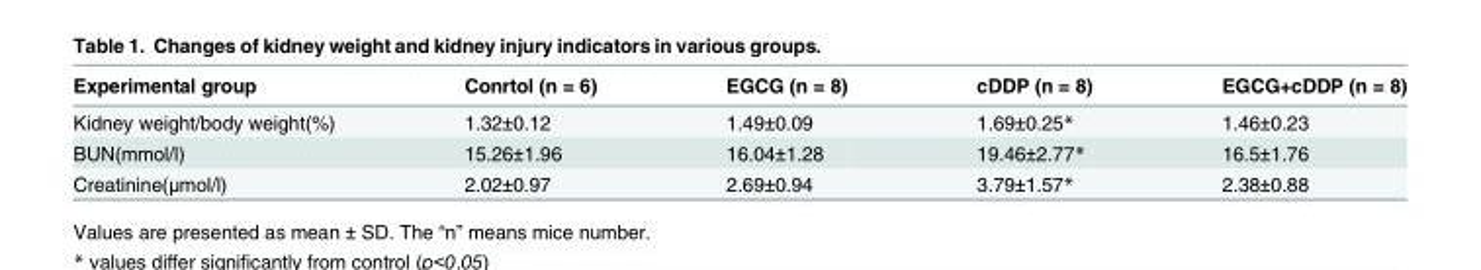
<table><thead><tr><td>Experimental group</td><td>Conrtol (n = 6)</td><td>EGCG (n = 8)</td><td>cDDP (n = 8)</td><td>EGCG+cDDP (n = 8)</td></tr></thead><tbody><tr><td>Kidney weight/body weight(%)</td><td>1.32±0.12</td><td>1.49±0.09</td><td>1.69±0.25*</td><td>1.46±0.23</td></tr><tr><td>BUN(mmol/l)</td><td>15.26±1.96</td><td>16.04±1.28</td><td>19.46±2.77*</td><td>16.5±1.76</td></tr><tr><td>Creatinine(μmol/l)</td><td>2.02±0.97</td><td>2.69±0.94</td><td>3.79±1.57*</td><td>2.38±0.88</td></tr></tbody></table>